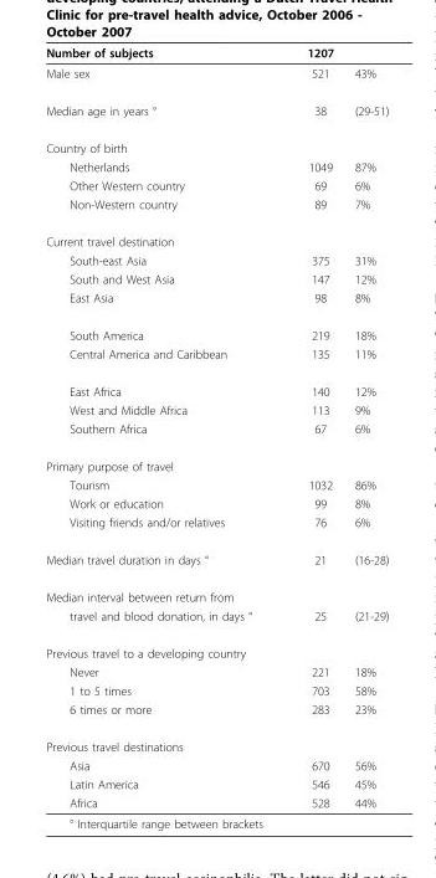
<table><thead><tr><td>Number of subjects</td><td>1207</td><td></td></tr></thead><tbody><tr><td>Male sex</td><td>521</td><td>43%</td></tr><tr><td>Median age in years °</td><td>38</td><td>(29-51)</td></tr><tr><td colspan="3">Country of birth</td></tr><tr><td>Netherlands</td><td>1049</td><td>87%</td></tr><tr><td>Other Western country</td><td>69</td><td>6%</td></tr><tr><td>Non-Western country</td><td>89</td><td>7%</td></tr><tr><td colspan="3">Current travel destination</td></tr><tr><td>South-east Asia</td><td>375</td><td>31%</td></tr><tr><td>South and West Asia</td><td>147</td><td>12%</td></tr><tr><td>East Asia</td><td>98</td><td>8%</td></tr><tr><td>South America</td><td>219</td><td>18%</td></tr><tr><td>Central America and Caribbean</td><td>135</td><td>11%</td></tr><tr><td>East Africa</td><td>140</td><td>12%</td></tr><tr><td>West and Middle Africa</td><td>113</td><td>9%</td></tr><tr><td>Southern Africa</td><td>67</td><td>6%</td></tr><tr><td colspan="3">Primary purpose of travel</td></tr><tr><td>Tourism</td><td>1032</td><td>86%</td></tr><tr><td>Work or education</td><td>99</td><td>8%</td></tr><tr><td>Visiting friends and/or relatives</td><td>76</td><td>6%</td></tr><tr><td>Median travel duration in days °</td><td>21</td><td>(16-28)</td></tr><tr><td colspan="3">Median interval between return from</td></tr><tr><td>travel and blood donation, in days °</td><td>25</td><td>(21-29)</td></tr><tr><td colspan="3">Previous travel to a developing country</td></tr><tr><td>Never</td><td>221</td><td>18%</td></tr><tr><td>1 to 5 times</td><td>703</td><td>58%</td></tr><tr><td>6 times or more</td><td>283</td><td>23%</td></tr><tr><td colspan="3">Previous travel destinations</td></tr><tr><td>Asia</td><td>670</td><td>56%</td></tr><tr><td>Latin America</td><td>546</td><td>45%</td></tr><tr><td>Africa</td><td>528</td><td>44%</td></tr><tr><td>° Interquartile range between brackets</td><td></td><td></td></tr></tbody></table>